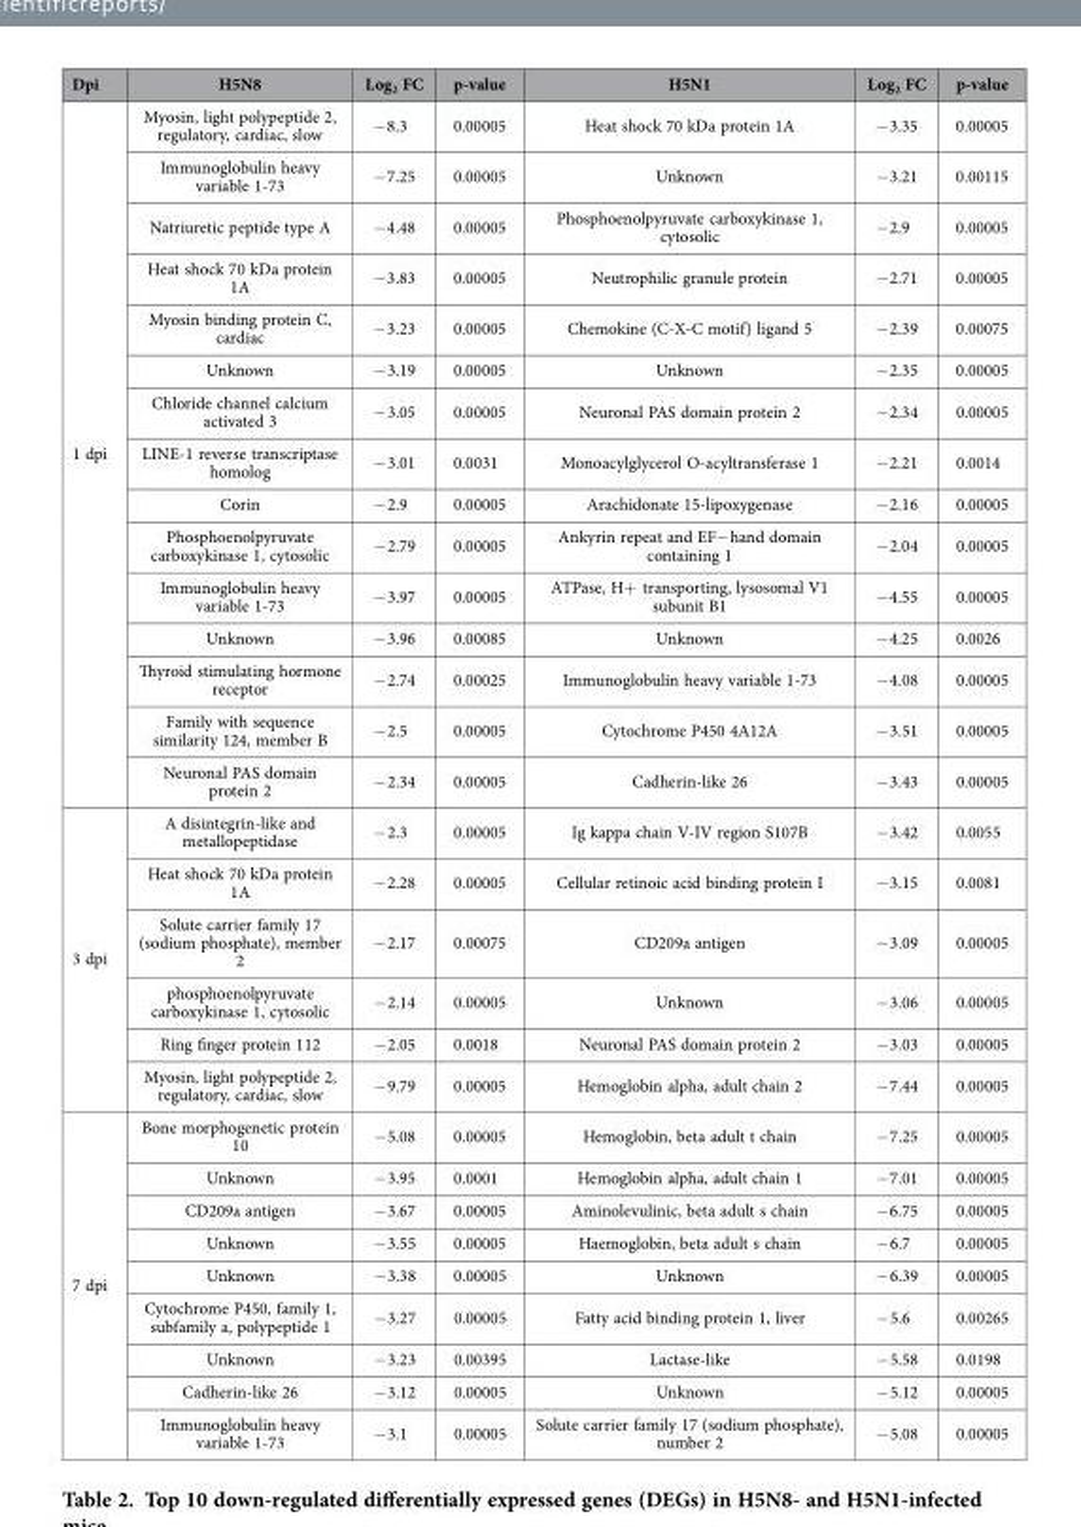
<table><thead><tr><td>Dpi</td><td>H5N8</td><td>Log<sub>2</sub> FC</td><td>p-value</td><td>H5N1</td><td>Log<sub>2</sub> FC</td><td>p-value</td></tr></thead><tbody><tr><td rowspan="15">1 dpi</td><td>Myosin, light polypeptide 2, regulatory, cardiac, slow</td><td>− 8.3</td><td>0.00005</td><td>Heat shock 70 kDa protein 1A</td><td>− 3.35</td><td>0.00005</td></tr><tr><td>Immunoglobulin heavy variable 1-73</td><td>− 7.25</td><td>0.00005</td><td>Unknown</td><td>− 3.21</td><td>0.00115</td></tr><tr><td>Natriuretic peptide type A</td><td>− 4.48</td><td>0.00005</td><td>Phosphoenolpyruvate carboxykinase 1, cytosolic</td><td>− 2.9</td><td>0.00005</td></tr><tr><td>Heat shock 70 kDa protein 1A</td><td>− 3.83</td><td>0.00005</td><td>Neutrophilic granule protein</td><td>− 2.71</td><td>0.00005</td></tr><tr><td>Myosin binding protein C, cardiac</td><td>− 3.23</td><td>0.00005</td><td>Chemokine (C-X-C motif) ligand 5</td><td>− 2.39</td><td>0.00075</td></tr><tr><td>Unknown</td><td>− 3.19</td><td>0.00005</td><td>Unknown</td><td>− 2.35</td><td>0.00005</td></tr><tr><td>Chloride channel calcium activated 3</td><td>− 3.05</td><td>0.00005</td><td>Neuronal PAS domain protein 2</td><td>− 2.34</td><td>0.00005</td></tr><tr><td>LINE-1 reverse transcriptase homolog</td><td>− 3.01</td><td>0.0031</td><td>Monoacylglycerol O-acyltransferase 1</td><td>− 2.21</td><td>0.0014</td></tr><tr><td>Corin</td><td>− 2.9</td><td>0.00005</td><td>Arachidonate 15-lipoxygenase</td><td>− 2.16</td><td>0.00005</td></tr><tr><td>Phosphoenolpyruvate carboxykinase 1, cytosolic</td><td>− 2.79</td><td>0.00005</td><td>Ankyrin repeat and EF− hand domain containing 1</td><td>− 2.04</td><td>0.00005</td></tr><tr><td>Immunoglobulin heavy variable 1-73</td><td>− 3.97</td><td>0.00005</td><td>ATPase, H+ transporting, lysosomal V1 subunit B1</td><td>− 4.55</td><td>0.00005</td></tr><tr><td>Unknown</td><td>− 3.96</td><td>0.00085</td><td>Unknown</td><td>− 4.25</td><td>0.0026</td></tr><tr><td>Thyroid stimulating hormone receptor</td><td>− 2.74</td><td>0.00025</td><td>Immunoglobulin heavy variable 1-73</td><td>− 4.08</td><td>0.00005</td></tr><tr><td>Family with sequence similarity 124, member B</td><td>− 2.5</td><td>0.00005</td><td>Cytochrome P450 4A12A</td><td>− 3.51</td><td>0.00005</td></tr><tr><td>Neuronal PAS domain protein 2</td><td>− 2.34</td><td>0.00005</td><td>Cadherin-like 26</td><td>− 3.43</td><td>0.00005</td></tr><tr><td rowspan="6">3 dpi</td><td>A disintegrin-like and metallopeptidase</td><td>− 2.3</td><td>0.00005</td><td>Ig kappa chain V-IV region S107B</td><td>− 3.42</td><td>0.0055</td></tr><tr><td>Heat shock 70 kDa protein 1A</td><td>− 2.28</td><td>0.00005</td><td>Cellular retinoic acid binding protein I</td><td>− 3.15</td><td>0.0081</td></tr><tr><td>Solute carrier family 17 (sodium phosphate), member 2</td><td>− 2.17</td><td>0.00075</td><td>CD209a antigen</td><td>− 3.09</td><td>0.00005</td></tr><tr><td>phosphoenolpyruvate carboxykinase 1, cytosolic</td><td>− 2.14</td><td>0.00005</td><td>Unknown</td><td>− 3.06</td><td>0.00005</td></tr><tr><td>Ring finger protein 112</td><td>− 2.05</td><td>0.0018</td><td>Neuronal PAS domain protein 2</td><td>− 3.03</td><td>0.00005</td></tr><tr><td>Myosin, light polypeptide 2, regulatory, cardiac, slow</td><td>− 9.79</td><td>0.00005</td><td>Hemoglobin alpha, adult chain 2</td><td>− 7.44</td><td>0.00005</td></tr><tr><td rowspan="9">7 dpi</td><td>Bone morphogenetic protein 10</td><td>− 5.08</td><td>0.00005</td><td>Hemoglobin, beta adult t chain</td><td>− 7.25</td><td>0.00005</td></tr><tr><td>Unknown</td><td>− 3.95</td><td>0.0001</td><td>Hemoglobin alpha, adult chain 1</td><td>− 7.01</td><td>0.00005</td></tr><tr><td>CD209a antigen</td><td>− 3.67</td><td>0.00005</td><td>Aminolevulinic, beta adult s chain</td><td>− 6.75</td><td>0.00005</td></tr><tr><td>Unknown</td><td>− 3.55</td><td>0.00005</td><td>Haemoglobin, beta adult s chain</td><td>− 6.7</td><td>0.00005</td></tr><tr><td>Unknown</td><td>− 3.38</td><td>0.00005</td><td>Unknown</td><td>− 6.39</td><td>0.00005</td></tr><tr><td>Cytochrome P450, family 1, subfamily a, polypeptide 1</td><td>− 3.27</td><td>0.00005</td><td>Fatty acid binding protein 1, liver</td><td>− 5.6</td><td>0.00265</td></tr><tr><td>Unknown</td><td>− 3.23</td><td>0.00395</td><td>Lactase-like</td><td>− 5.58</td><td>0.0198</td></tr><tr><td>Cadherin-like 26</td><td>− 3.12</td><td>0.00005</td><td>Unknown</td><td>− 5.12</td><td>0.00005</td></tr><tr><td>Immunoglobulin heavy variable 1-73</td><td>− 3.1</td><td>0.00005</td><td>Solute carrier family 17 (sodium phosphate), number 2</td><td>− 5.08</td><td>0.00005</td></tr></tbody></table>